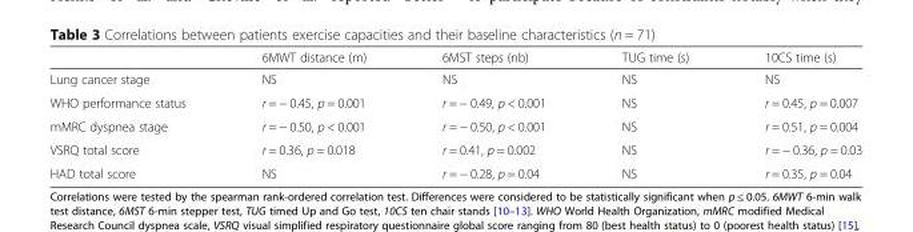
<table><thead><tr><td></td><td>6MWT distance (m)</td><td>6MST steps (nb)</td><td>TUG time (s)</td><td>10CS time (s)</td></tr></thead><tbody><tr><td>Lung cancer stage</td><td>NS</td><td>NS</td><td>NS</td><td>NS</td></tr><tr><td>WHO performance status</td><td>r = − 0.45, p = 0.001</td><td>r = − 0.49, p &lt; 0.001</td><td>NS</td><td>r = 0.45, p = 0.007</td></tr><tr><td>mMRC dyspnea stage</td><td>r = − 0.50, p &lt; 0.001</td><td>r = − 0.50, p &lt; 0.001</td><td>NS</td><td>r = 0.51, p = 0.004</td></tr><tr><td>VSRQ total score</td><td>r = 0.36, p = 0.018</td><td>r = 0.41, p = 0.002</td><td>NS</td><td>r = − 0.36, p = 0.03</td></tr><tr><td>HAD total score</td><td>NS</td><td>r = − 0.28, p = 0.04</td><td>NS</td><td>r = 0.35, p = 0.04</td></tr></tbody></table>